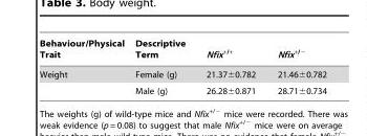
<table><thead><tr><td>Behaviour/Physical Trait</td><td>Descriptive Term</td><td>Nfix<sup>+/+</sup></td><td>Nfix<sup>+/−</sup></td></tr></thead><tbody><tr><td rowspan="2">Weight</td><td>Female (g)</td><td>21.37±0.782</td><td>21.46±0.782</td></tr><tr><td>Male (g)</td><td>26.28±0.871</td><td>28.71±0.734</td></tr></tbody></table>